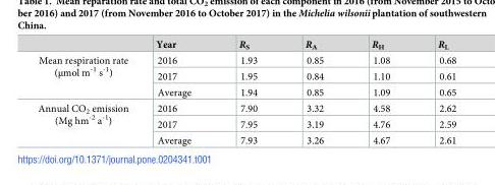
<table><thead><tr><td></td><td>Year</td><td>R<sub>S</sub></td><td>R<sub>A</sub></td><td>R<sub>H</sub></td><td>R<sub>L</sub></td></tr></thead><tbody><tr><td rowspan="3">Mean respiration rate (μmol m<sup>-1</sup> s<sup>-1</sup>)</td><td>2016</td><td>1.93</td><td>0.85</td><td>1.08</td><td>0.68</td></tr><tr><td>2017</td><td>1.95</td><td>0.84</td><td>1.10</td><td>0.61</td></tr><tr><td>Average</td><td>1.94</td><td>0.85</td><td>1.09</td><td>0.65</td></tr><tr><td rowspan="3">Annual CO<sub>2</sub> emission (Mg hm<sup>-2</sup> a<sup>-1</sup>)</td><td>2016</td><td>7.90</td><td>3.32</td><td>4.58</td><td>2.62</td></tr><tr><td>2017</td><td>7.95</td><td>3.19</td><td>4.76</td><td>2.59</td></tr><tr><td>Average</td><td>7.93</td><td>3.26</td><td>4.67</td><td>2.61</td></tr></tbody></table>